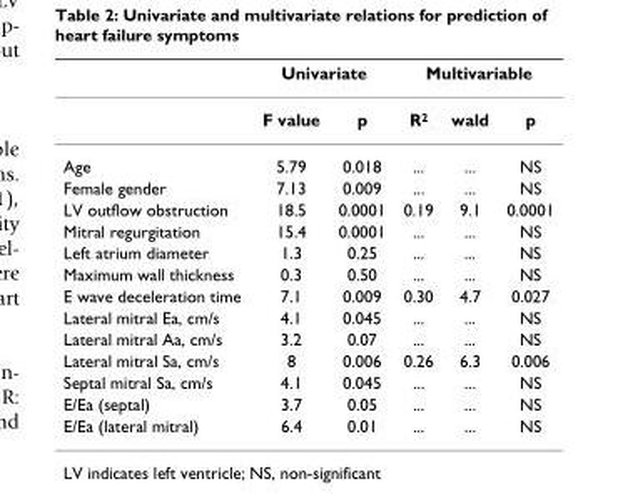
<table><thead><tr><td rowspan="2"></td><td colspan="2">Univariate</td><td colspan="3">Multivariable</td></tr><tr><td>F value</td><td>p</td><td>R<sup>2</sup></td><td>wald</td><td>p</td></tr></thead><tbody><tr><td>Age</td><td>5.79</td><td>0.018</td><td>...</td><td>...</td><td>NS</td></tr><tr><td>Female gender</td><td>7.13</td><td>0.009</td><td>...</td><td>...</td><td>NS</td></tr><tr><td>LV outflow obstruction</td><td>18.5</td><td>0.0001</td><td>0.19</td><td>9.1</td><td>0.0001</td></tr><tr><td>Mitral regurgitation</td><td>15.4</td><td>0.0001</td><td>...</td><td>...</td><td>NS</td></tr><tr><td>Left atrium diameter</td><td>1.3</td><td>0.25</td><td>...</td><td>...</td><td>NS</td></tr><tr><td>Maximum wall thickness</td><td>0.3</td><td>0.50</td><td>...</td><td>...</td><td>NS</td></tr><tr><td>E wave deceleration time</td><td>7.1</td><td>0.009</td><td>0.30</td><td>4.7</td><td>0.027</td></tr><tr><td>Lateral mitral Ea, cm/s</td><td>4.1</td><td>0.045</td><td>...</td><td>...</td><td>NS</td></tr><tr><td>Lateral mitral Aa, cm/s</td><td>3.2</td><td>0.07</td><td>...</td><td>...</td><td>NS</td></tr><tr><td>Lateral mitral Sa, cm/s</td><td>8</td><td>0.006</td><td>0.26</td><td>6.3</td><td>0.006</td></tr><tr><td>Septal mitral Sa, cm/s</td><td>4.1</td><td>0.045</td><td>...</td><td>...</td><td>NS</td></tr><tr><td>E/Ea (septal)</td><td>3.7</td><td>0.05</td><td>...</td><td>...</td><td>NS</td></tr><tr><td>E/Ea (lateral mitral)</td><td>6.4</td><td>0.01</td><td>...</td><td>...</td><td>NS</td></tr></tbody></table>